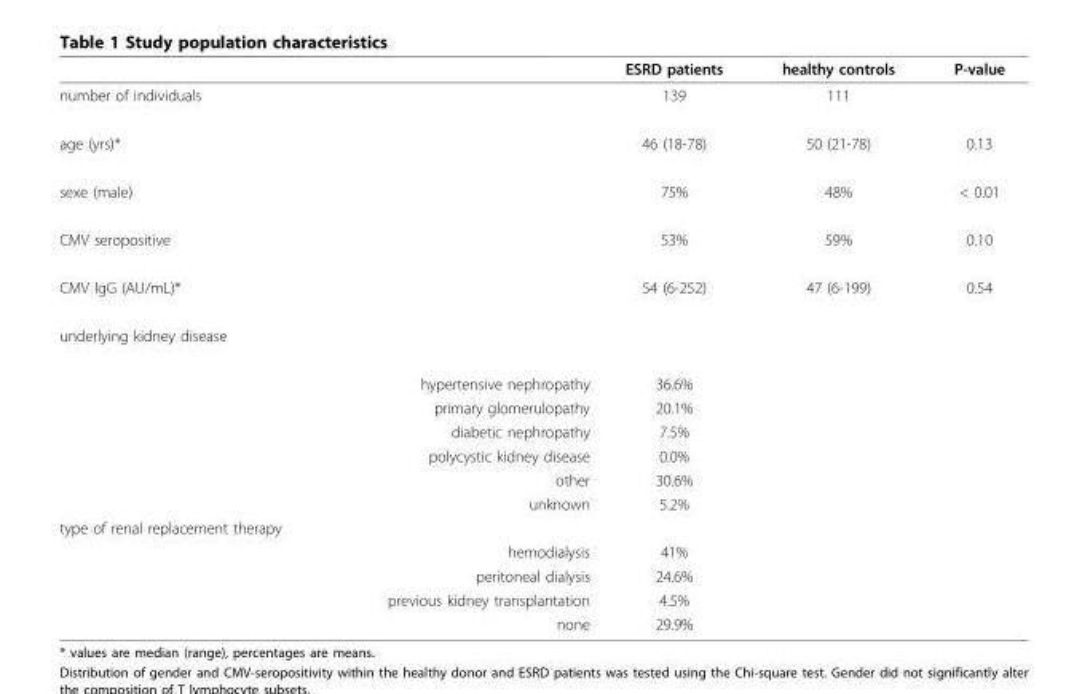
<table><thead><tr><td></td><td></td><td>ESRD patients</td><td>healthy controls</td><td>P-value</td></tr></thead><tbody><tr><td>number of individuals</td><td></td><td>139</td><td>111</td><td></td></tr><tr><td>age (yrs)*</td><td></td><td>46 (18-78)</td><td>50 (21-78)</td><td>0.13</td></tr><tr><td>sexe (male)</td><td></td><td>75%</td><td>48%</td><td>&lt; 0.01</td></tr><tr><td>CMV seropositive</td><td></td><td>53%</td><td>59%</td><td>0.10</td></tr><tr><td>CMV IgG (AU/mL)*</td><td></td><td>54 (6-252)</td><td>47 (6-199)</td><td>0.54</td></tr><tr><td colspan="5">underlying kidney disease</td></tr><tr><td></td><td>hypertensive nephropathy</td><td>36.6%</td><td></td><td></td></tr><tr><td></td><td>primary glomerulopathy</td><td>20.1%</td><td></td><td></td></tr><tr><td></td><td>diabetic nephropathy</td><td>7.5%</td><td></td><td></td></tr><tr><td></td><td>polycystic kidney disease</td><td>0.0%</td><td></td><td></td></tr><tr><td></td><td>other</td><td>30.6%</td><td></td><td></td></tr><tr><td></td><td>unknown</td><td>5.2%</td><td></td><td></td></tr><tr><td colspan="5">type of renal replacement therapy</td></tr><tr><td></td><td>hemodialysis</td><td>41%</td><td></td><td></td></tr><tr><td></td><td>peritoneal dialysis</td><td>24.6%</td><td></td><td></td></tr><tr><td></td><td>previous kidney transplantation</td><td>4.5%</td><td></td><td></td></tr><tr><td></td><td>none</td><td>29.9%</td><td></td><td></td></tr></tbody></table>